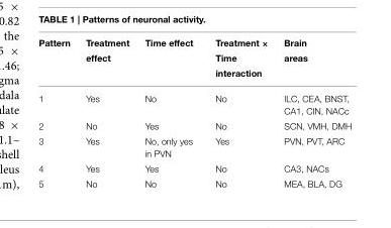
<table><thead><tr><td>Pattern</td><td>Treatment effect</td><td>Time effect</td><td>Treatment × Time interaction</td><td>Brain areas</td></tr></thead><tbody><tr><td>1</td><td>Yes</td><td>No</td><td>No</td><td>ILC, CEA, BNST, CA1, CIN, NACc</td></tr><tr><td>2</td><td>No</td><td>Yes</td><td>No</td><td>SCN, VMH, DMH</td></tr><tr><td>3</td><td>Yes</td><td>No, only yes in PVN</td><td>Yes</td><td>PVN, PVT, ARC</td></tr><tr><td>4</td><td>Yes</td><td>Yes</td><td>No</td><td>CA3, NACs</td></tr><tr><td>5</td><td>No</td><td>No</td><td>No</td><td>MEA, BLA, DG</td></tr></tbody></table>